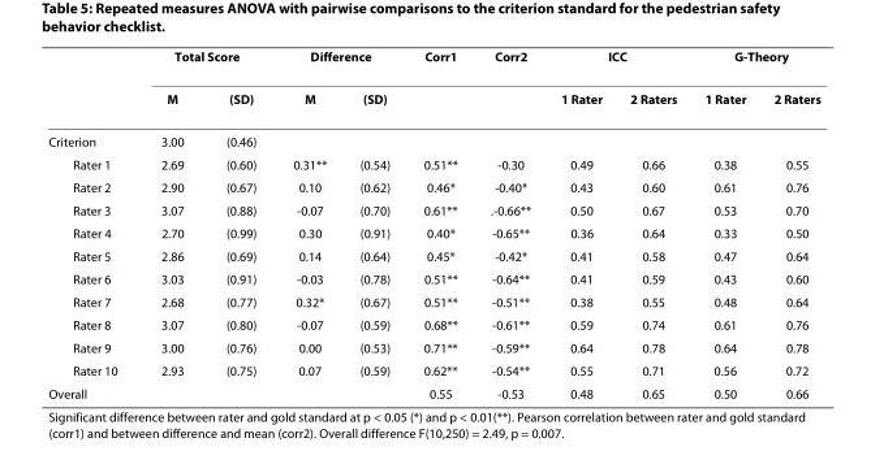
<table><thead><tr><td rowspan="2"></td><td colspan="2">Total Score</td><td colspan="2">Difference</td><td rowspan="2">Corr1</td><td rowspan="2">Corr2</td><td colspan="2">ICC</td><td colspan="2">G-Theory</td></tr><tr><td>M</td><td>(SD)</td><td>M</td><td>(SD)</td><td>1 Rater</td><td>2 Raters</td><td>1 Rater</td><td>2 Raters</td></tr></thead><tbody><tr><td>Criterion</td><td>3.00</td><td>(0.46)</td><td></td><td></td><td></td><td></td><td></td><td></td><td></td><td></td></tr><tr><td>Rater 1</td><td>2.69</td><td>(0.60)</td><td>0.31**</td><td>(0.54)</td><td>0.51**</td><td>-0.30</td><td>0.49</td><td>0.66</td><td>0.38</td><td>0.55</td></tr><tr><td>Rater 2</td><td>2.90</td><td>(0.67)</td><td>0.10</td><td>(0.62)</td><td>0.46*</td><td>-0.40*</td><td>0.43</td><td>0.60</td><td>0.61</td><td>0.76</td></tr><tr><td>Rater 3</td><td>3.07</td><td>(0.88)</td><td>-0.07</td><td>(0.70)</td><td>0.61**</td><td>.-0.66**</td><td>0.50</td><td>0.67</td><td>0.53</td><td>0.70</td></tr><tr><td>Rater 4</td><td>2.70</td><td>(0.99)</td><td>0.30</td><td>(0.91)</td><td>0.40*</td><td>-0.65**</td><td>0.36</td><td>0.64</td><td>0.33</td><td>0.50</td></tr><tr><td>Rater 5</td><td>2.86</td><td>(0.69)</td><td>0.14</td><td>(0.64)</td><td>0.45*</td><td>-0.42*</td><td>0.41</td><td>0.58</td><td>0.47</td><td>0.64</td></tr><tr><td>Rater 6</td><td>3.03</td><td>(0.91)</td><td>-0.03</td><td>(0.78)</td><td>0.51**</td><td>-0.64**</td><td>0.41</td><td>0.59</td><td>0.43</td><td>0.60</td></tr><tr><td>Rater 7</td><td>2.68</td><td>(0.77)</td><td>0.32*</td><td>(0.67)</td><td>0.51**</td><td>-0.51**</td><td>0.38</td><td>0.55</td><td>0.48</td><td>0.64</td></tr><tr><td>Rater 8</td><td>3.07</td><td>(0.80)</td><td>-0.07</td><td>(0.59)</td><td>0.68**</td><td>-0.61**</td><td>0.59</td><td>0.74</td><td>0.61</td><td>0.76</td></tr><tr><td>Rater 9</td><td>3.00</td><td>(0.76)</td><td>0.00</td><td>(0.53)</td><td>0.71**</td><td>-0.59**</td><td>0.64</td><td>0.78</td><td>0.64</td><td>0.78</td></tr><tr><td>Rater 10</td><td>2.93</td><td>(0.75)</td><td>0.07</td><td>(0.59)</td><td>0.62**</td><td>-0.54**</td><td>0.55</td><td>0.71</td><td>0.56</td><td>0.72</td></tr><tr><td>Overall</td><td></td><td></td><td></td><td></td><td>0.55</td><td>-0.53</td><td>0.48</td><td>0.65</td><td>0.50</td><td>0.66</td></tr></tbody></table>